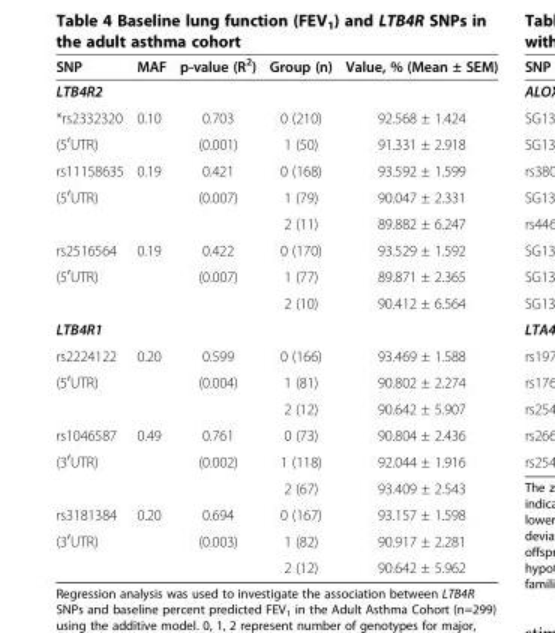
<table><thead><tr><td>SNP</td><td>MAF</td><td>p-value (R<sup>2</sup>)</td><td>Group (n)</td><td>Value, % (Mean ± SEM)</td></tr></thead><tbody><tr><td colspan="5">LTB4R2</td></tr><tr><td>*rs2332320</td><td>0.10</td><td>0.703</td><td>0 (210)</td><td>92.568 ± 1.424</td></tr><tr><td>(5′UTR)</td><td></td><td>(0.001)</td><td>1 (50)</td><td>91.331 ± 2.918</td></tr><tr><td>rs11158635</td><td>0.19</td><td>0.421</td><td>0 (168)</td><td>93.592 ± 1.599</td></tr><tr><td rowspan="2">(5′UTR)</td><td></td><td>(0.007)</td><td>1 (79)</td><td>90.047 ± 2.331</td></tr><tr><td></td><td></td><td>2 (11)</td><td>89.882 ± 6.247</td></tr><tr><td>rs2516564</td><td>0.19</td><td>0.422</td><td>0 (170)</td><td>93.529 ± 1.592</td></tr><tr><td rowspan="2">(5′UTR)</td><td></td><td>(0.007)</td><td>1 (77)</td><td>89.871 ± 2.365</td></tr><tr><td></td><td></td><td>2 (10)</td><td>90.412 ± 6.564</td></tr><tr><td colspan="5">LTB4R1</td></tr><tr><td>rs2224122</td><td>0.20</td><td>0.599</td><td>0 (166)</td><td>93.469 ± 1.588</td></tr><tr><td rowspan="2">(5′UTR)</td><td></td><td>(0.004)</td><td>1 (81)</td><td>90.802 ± 2.274</td></tr><tr><td></td><td></td><td>2 (12)</td><td>90.642 ± 5.907</td></tr><tr><td>rs1046587</td><td>0.49</td><td>0.761</td><td>0 (73)</td><td>90.804 ± 2.436</td></tr><tr><td rowspan="2">(3′UTR)</td><td></td><td>(0.002)</td><td>1 (118)</td><td>92.044 ± 1.916</td></tr><tr><td></td><td></td><td>2 (67)</td><td>93.409 ± 2.543</td></tr><tr><td>rs3181384</td><td>0.20</td><td>0.694</td><td>0 (167)</td><td>93.157 ± 1.598</td></tr><tr><td rowspan="2">(3′UTR)</td><td></td><td>(0.003)</td><td>1 (82)</td><td>90.917 ± 2.281</td></tr><tr><td></td><td></td><td>2 (12)</td><td>90.642 ± 5.962</td></tr></tbody></table>